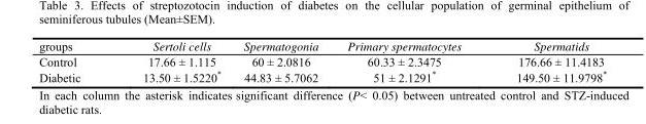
<table><thead><tr><td>groups</td><td>Sertoli cells</td><td>Spermatogonia</td><td>Primary spermatocytes</td><td>Spermatids</td></tr></thead><tbody><tr><td>Control</td><td>17.66 ± 1.115</td><td>60 ± 2.0816</td><td>60.33 ± 2.3475</td><td>176.66 ± 11.4183</td></tr><tr><td>Diabetic</td><td>13.50 ± 1.5220*</td><td>44.83 ± 5.7062</td><td>51 ± 2.1291*</td><td>149.50 ± 11.9798*</td></tr></tbody></table>